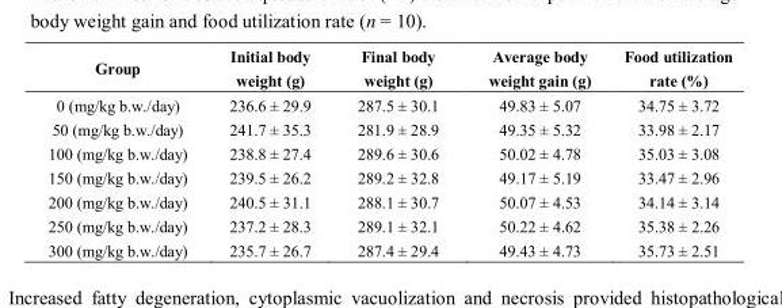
<table><thead><tr><td>Group</td><td>Initial body weight (g)</td><td>Final body weight (g)</td><td>Average body weight gain (g)</td><td>Food utilization rate (%)</td></tr></thead><tbody><tr><td>0 (mg/kg b.w./day)</td><td>236.6 ± 29.9</td><td>287.5 ± 30.1</td><td>49.83 ± 5.07</td><td>34.75 ± 3.72</td></tr><tr><td>50 (mg/kg b.w./day)</td><td>241.7 ± 35.3</td><td>281.9 ± 28.9</td><td>49.35 ± 5.32</td><td>33.98 ± 2.17</td></tr><tr><td>100 (mg/kg b.w./day)</td><td>238.8 ± 27.4</td><td>289.6 ± 30.6</td><td>50.02 ± 4.78</td><td>35.03 ± 3.08</td></tr><tr><td>150 (mg/kg b.w./day)</td><td>239.5 ± 26.2</td><td>289.2 ± 32.8</td><td>49.17 ± 5.19</td><td>33.47 ± 2.96</td></tr><tr><td>200 (mg/kg b.w./day)</td><td>240.5 ± 31.1</td><td>288.1 ± 30.7</td><td>50.07 ± 4.53</td><td>34.14 ± 3.14</td></tr><tr><td>250 (mg/kg b.w./day)</td><td>237.2 ± 28.3</td><td>289.1 ± 32.1</td><td>50.22 ± 4.62</td><td>35.38 ± 2.26</td></tr><tr><td>300 (mg/kg b.w./day)</td><td>235.7 ± 26.7</td><td>287.4 ± 29.4</td><td>49.43 ± 4.73</td><td>35.73 ± 2.51</td></tr></tbody></table>